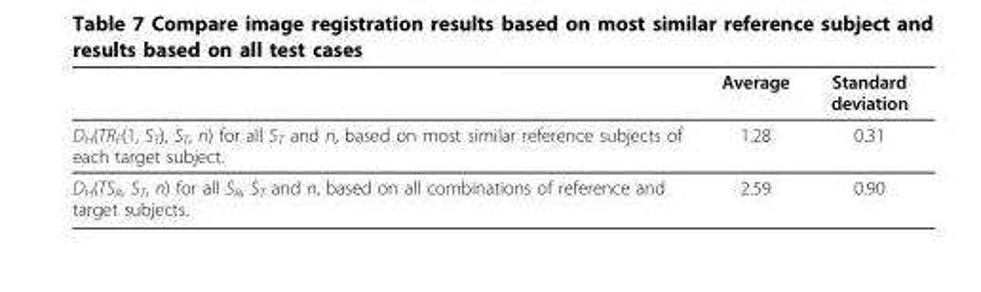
<table><thead><tr><td></td><td>Average</td><td>Standard deviation</td></tr></thead><tbody><tr><td>D<sub>H</sub>(TR<sub>F</sub>(1, S<sub>T</sub>), S<sub>T</sub>, n) for all S<sub>T</sub> and n, based on most similar reference subjects of each target subject.</td><td>1.28</td><td>0.31</td></tr><tr><td>D<sub>H</sub>(TS<sub>R</sub>, S<sub>T</sub>, n) for all S<sub>R</sub>, S<sub>T</sub> and n, based on all combinations of reference and target subjects.</td><td>2.59</td><td>0.90</td></tr></tbody></table>